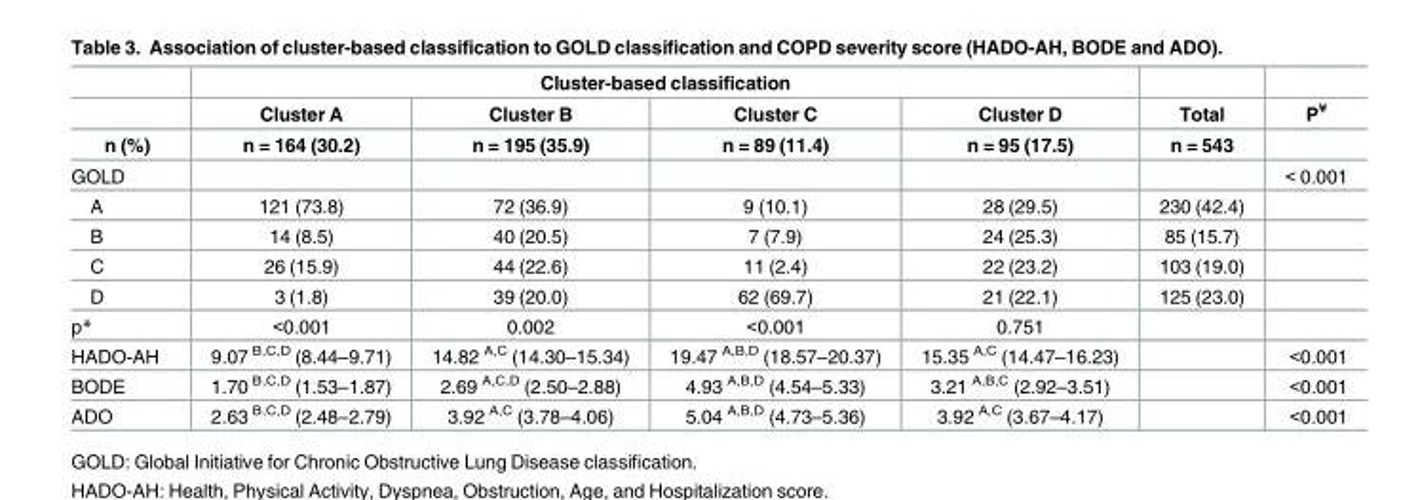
<table><thead><tr><td rowspan="3">n (%)</td><td colspan="4">Cluster-based classification</td><td rowspan="3">Total n = 543</td><td rowspan="3">P<sup>¥</sup></td></tr><tr><td rowspan="2">Cluster A n = 164 (30.2)</td><td rowspan="2">Cluster B n = 195 (35.9)</td><td rowspan="2">Cluster C n = 89 (11.4)</td><td rowspan="2">Cluster D n = 95 (17.5)</td></tr><tr></tr></thead><tbody><tr><td>GOLD</td><td></td><td></td><td></td><td></td><td></td><td>&lt; 0.001</td></tr><tr><td>A</td><td>121 (73.8)</td><td>72 (36.9)</td><td>9 (10.1)</td><td>28 (29.5)</td><td>230 (42.4)</td><td></td></tr><tr><td>B</td><td>14 (8.5)</td><td>40 (20.5)</td><td>7 (7.9)</td><td>24 (25.3)</td><td>85 (15.7)</td><td></td></tr><tr><td>C</td><td>26 (15.9)</td><td>44 (22.6)</td><td>11 (2.4)</td><td>22 (23.2)</td><td>103 (19.0)</td><td></td></tr><tr><td>D</td><td>3 (1.8)</td><td>39 (20.0)</td><td>62 (69.7)</td><td>21 (22.1)</td><td>125 (23.0)</td><td></td></tr><tr><td>p*</td><td>&lt;0.001</td><td>0.002</td><td>&lt;0.001</td><td>0.751</td><td></td><td></td></tr><tr><td>HADO-AH</td><td>9.07 <sup>B,C,D</sup> (8.44–9.71)</td><td>14.82 <sup>A,C</sup> (14.30–15.34)</td><td>19.47 <sup>A,B,D</sup> (18.57–20.37)</td><td>15.35 <sup>A,C</sup> (14.47–16.23)</td><td></td><td>&lt;0.001</td></tr><tr><td>BODE</td><td>1.70 <sup>B,C,D</sup> (1.53–1.87)</td><td>2.69 <sup>A,C,D</sup> (2.50–2.88)</td><td>4.93 <sup>A,B,D</sup> (4.54–5.33)</td><td>3.21 <sup>A,B,C</sup> (2.92–3.51)</td><td></td><td>&lt;0.001</td></tr><tr><td>ADO</td><td>2.63 <sup>B,C,D</sup> (2.48–2.79)</td><td>3.92 <sup>A,C</sup> (3.78–4.06)</td><td>5.04 <sup>A,B,D</sup> (4.73–5.36)</td><td>3.92 <sup>A,C</sup> (3.67–4.17)</td><td></td><td>&lt;0.001</td></tr></tbody></table>